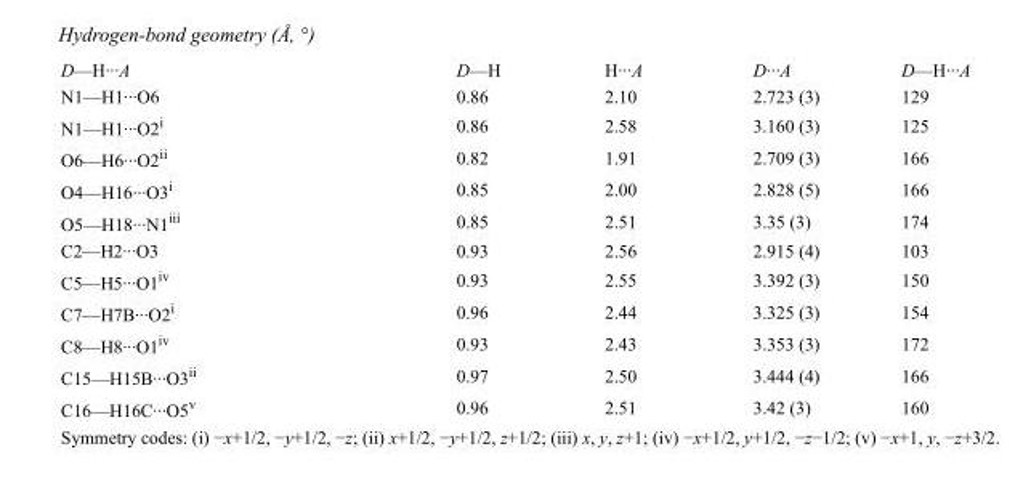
<table><tbody><tr><td>D—H···A</td><td>D—H</td><td>H···A</td><td>D···A</td><td>D—H···A</td></tr><tr><td>N1—H1···O6</td><td>0.86</td><td>2.10</td><td>2.723 (3)</td><td>129</td></tr><tr><td>N1—H1···O2<sup>i</sup></td><td>0.86</td><td>2.58</td><td>3.160 (3)</td><td>125</td></tr><tr><td>O6—H6···O2<sup>ii</sup></td><td>0.82</td><td>1.91</td><td>2.709 (3)</td><td>166</td></tr><tr><td>O4—H16···O3<sup>i</sup></td><td>0.85</td><td>2.00</td><td>2.828 (5)</td><td>166</td></tr><tr><td>O5—H18···N1<sup>iii</sup></td><td>0.85</td><td>2.51</td><td>3.35 (3)</td><td>174</td></tr><tr><td>C2—H2···O3</td><td>0.93</td><td>2.56</td><td>2.915 (4)</td><td>103</td></tr><tr><td>C5—H5···O1<sup>iv</sup></td><td>0.93</td><td>2.55</td><td>3.392 (3)</td><td>150</td></tr><tr><td>C7—H7B···O2<sup>i</sup></td><td>0.96</td><td>2.44</td><td>3.325 (3)</td><td>154</td></tr><tr><td>C8—H8···O1<sup>iv</sup></td><td>0.93</td><td>2.43</td><td>3.353 (3)</td><td>172</td></tr><tr><td>C15—H15B···O3<sup>ii</sup></td><td>0.97</td><td>2.50</td><td>3.444 (4)</td><td>166</td></tr><tr><td>C16—H16C···O5<sup>v</sup></td><td>0.96</td><td>2.51</td><td>3.42 (3)</td><td>160</td></tr></tbody></table>